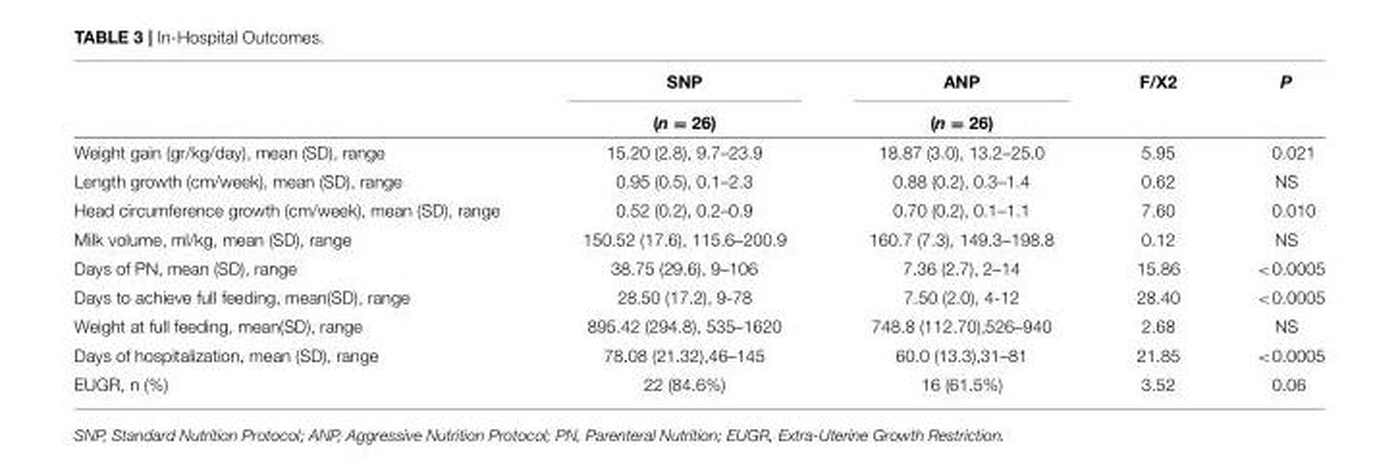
<table><thead><tr><td rowspan="2"></td><td rowspan="2">SNP (n = 26)</td><td rowspan="2">ANP (n = 26)</td><td rowspan="2">F/X2</td><td rowspan="2">P</td></tr><tr></tr></thead><tbody><tr><td>Weight gain (gr/kg/day), mean (SD), range</td><td>15.20 (2.8), 9.7–23.9</td><td>18.87 (3.0), 13.2–25.0</td><td>5.95</td><td>0.021</td></tr><tr><td>Length growth (cm/week), mean (SD), range</td><td>0.95 (0.5), 0.1–2.3</td><td>0.88 (0.2), 0.3–1.4</td><td>0.62</td><td>NS</td></tr><tr><td>Head circumference growth (cm/week), mean (SD), range</td><td>0.52 (0.2), 0.2–0.9</td><td>0.70 (0.2), 0.1–1.1</td><td>7.60</td><td>0.010</td></tr><tr><td>Milk volume, ml/kg, mean (SD), range</td><td>150.52 (17.6), 115.6–200.9</td><td>160.7 (7.3), 149.3–198.8</td><td>0.12</td><td>NS</td></tr><tr><td>Days of PN, mean (SD), range</td><td>38.75 (29.6), 9–106</td><td>7.36 (2.7), 2–14</td><td>15.86</td><td>&lt;0.0005</td></tr><tr><td>Days to achieve full feeding, mean(SD), range</td><td>28.50 (17.2), 9-78</td><td>7.50 (2.0), 4-12</td><td>28.40</td><td>&lt;0.0005</td></tr><tr><td>Weight at full feeding, mean(SD), range</td><td>895.42 (294.8), 535–1620</td><td>748.8 (112.70),526–940</td><td>2.68</td><td>NS</td></tr><tr><td>Days of hospitalization, mean (SD), range</td><td>78.08 (21.32),46–145</td><td>60.0 (13.3),31–81</td><td>21.85</td><td>&lt;0.0005</td></tr><tr><td>EUGR, n (%)</td><td>22 (84.6%)</td><td>16 (61.5%)</td><td>3.52</td><td>0.06</td></tr></tbody></table>